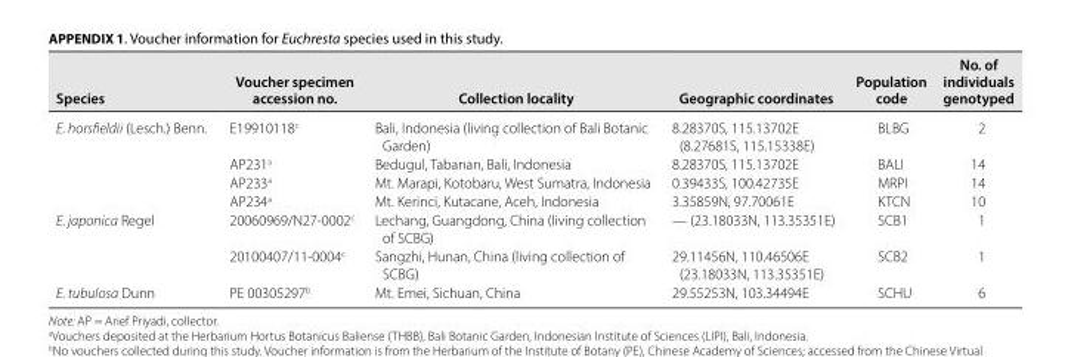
<table><thead><tr><td>Species</td><td>Voucher specimen accession no.</td><td>Collection locality</td><td>Geographic coordinates</td><td>Population code</td><td>No. of individuals genotyped</td></tr></thead><tbody><tr><td rowspan="4">E. horsfieldii (Lesch.) Benn.</td><td>E19910118<sup>c</sup></td><td>Bali, Indonesia (living collection of Bali Botanic Garden)</td><td>8.28370S, 115.13702E (8.27681S, 115.15338E)</td><td>BLBG</td><td>2</td></tr><tr><td>AP231<sup>a</sup></td><td>Bedugul, Tabanan, Bali, Indonesia</td><td>8.28370S, 115.13702E</td><td>BALI</td><td>14</td></tr><tr><td>AP233<sup>a</sup></td><td>Mt. Marapi, Kotobaru, West Sumatra, Indonesia</td><td>0.39433S, 100.42735E</td><td>MRPI</td><td>14</td></tr><tr><td>AP234<sup>a</sup></td><td>Mt. Kerinci, Kutacane, Aceh, Indonesia</td><td>3.35859N, 97.70061E</td><td>KTCN</td><td>10</td></tr><tr><td rowspan="2">E. japonica Regel</td><td>20060969/N27- 0002<sup>c</sup></td><td>Lechang, Guangdong, China (living collection of SCBG)</td><td>— (23.18033N, 113.35351E)</td><td>SCB1</td><td>1</td></tr><tr><td>20100407/11- 0004<sup>c</sup></td><td>Sangzhi, Hunan, China (living collection of SCBG)</td><td>29.11456N, 110.46506E (23.18033N, 113.35351E)</td><td>SCB2</td><td>1</td></tr><tr><td>E. tubulosa Dunn</td><td>PE 00305297<sup>b</sup></td><td>Mt. Emei, Sichuan, China</td><td>29.55253N, 103.34494E</td><td>SCHU</td><td>6</td></tr></tbody></table>